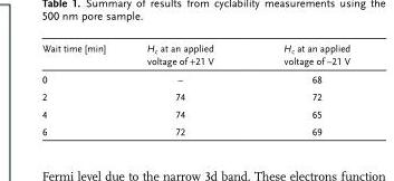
<table><thead><tr><td>Wait time [min]</td><td>H<sub>c</sub> at an applied voltage of +21 V</td><td>H<sub>c</sub> at an applied voltage of –21 V</td></tr></thead><tbody><tr><td>0</td><td>–</td><td>68</td></tr><tr><td>2</td><td>74</td><td>72</td></tr><tr><td>4</td><td>74</td><td>65</td></tr><tr><td>6</td><td>72</td><td>69</td></tr></tbody></table>